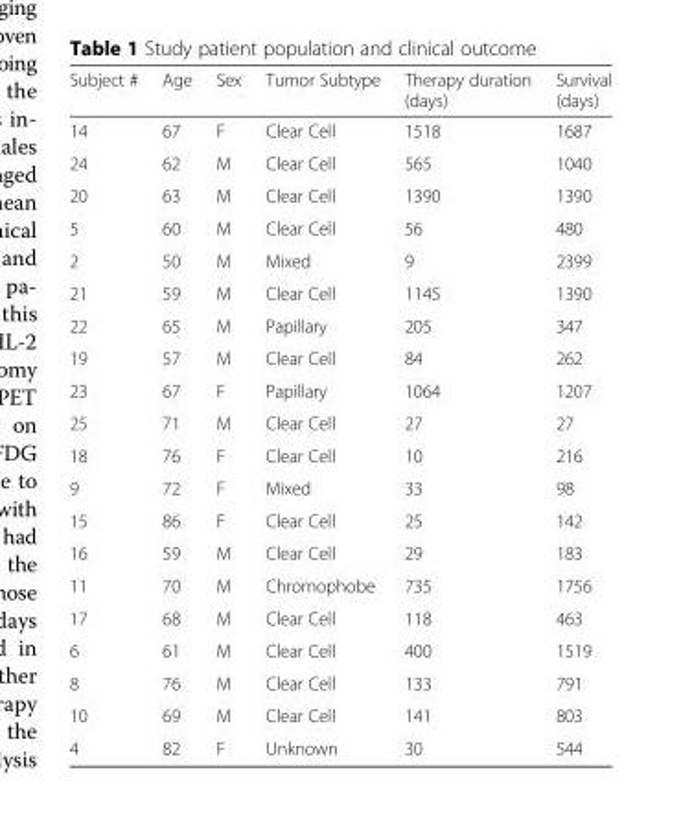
<table><thead><tr><td>Subject #</td><td>Age</td><td>Sex</td><td>Tumor Subtype</td><td>Therapy duration (days)</td><td>Survival (days)</td></tr></thead><tbody><tr><td>14</td><td>67</td><td>F</td><td>Clear Cell</td><td>1518</td><td>1687</td></tr><tr><td>24</td><td>62</td><td>M</td><td>Clear Cell</td><td>565</td><td>1040</td></tr><tr><td>20</td><td>63</td><td>M</td><td>Clear Cell</td><td>1390</td><td>1390</td></tr><tr><td>5</td><td>60</td><td>M</td><td>Clear Cell</td><td>56</td><td>480</td></tr><tr><td>2</td><td>50</td><td>M</td><td>Mixed</td><td>9</td><td>2399</td></tr><tr><td>21</td><td>59</td><td>M</td><td>Clear Cell</td><td>1145</td><td>1390</td></tr><tr><td>22</td><td>65</td><td>M</td><td>Papillary</td><td>205</td><td>347</td></tr><tr><td>19</td><td>57</td><td>M</td><td>Clear Cell</td><td>84</td><td>262</td></tr><tr><td>23</td><td>67</td><td>F</td><td>Papillary</td><td>1064</td><td>1207</td></tr><tr><td>25</td><td>71</td><td>M</td><td>Clear Cell</td><td>27</td><td>27</td></tr><tr><td>18</td><td>76</td><td>F</td><td>Clear Cell</td><td>10</td><td>216</td></tr><tr><td>9</td><td>72</td><td>F</td><td>Mixed</td><td>33</td><td>98</td></tr><tr><td>15</td><td>86</td><td>F</td><td>Clear Cell</td><td>25</td><td>142</td></tr><tr><td>16</td><td>59</td><td>M</td><td>Clear Cell</td><td>29</td><td>183</td></tr><tr><td>11</td><td>70</td><td>M</td><td>Chromophobe</td><td>735</td><td>1756</td></tr><tr><td>17</td><td>68</td><td>M</td><td>Clear Cell</td><td>118</td><td>463</td></tr><tr><td>6</td><td>61</td><td>M</td><td>Clear Cell</td><td>400</td><td>1519</td></tr><tr><td>8</td><td>76</td><td>M</td><td>Clear Cell</td><td>133</td><td>791</td></tr><tr><td>10</td><td>69</td><td>M</td><td>Clear Cell</td><td>141</td><td>803</td></tr><tr><td>4</td><td>82</td><td>F</td><td>Unknown</td><td>30</td><td>544</td></tr></tbody></table>